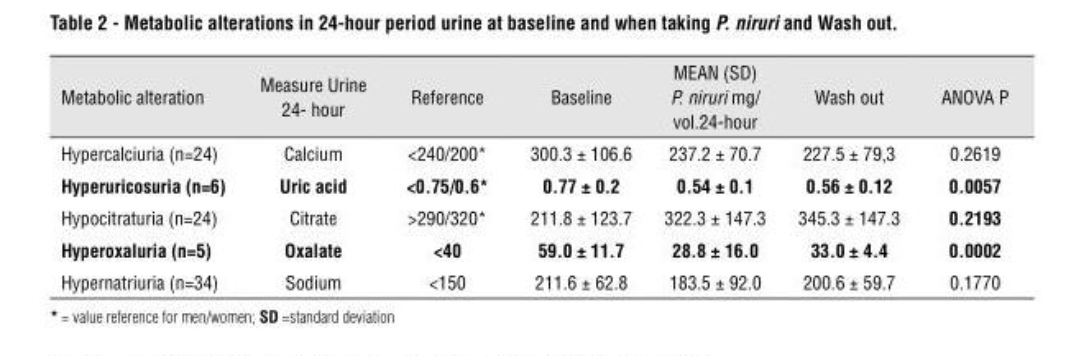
<table><thead><tr><td>Metabolic alteration</td><td>Measure Urine 24- hour</td><td>Reference</td><td>Baseline</td><td>MEAN (SD) P. niruri mg/ vol.24-hour</td><td>Wash out</td><td>ANOVA P</td></tr></thead><tbody><tr><td>Hypercalciuria (n=24)</td><td>Calcium</td><td>&lt;240/200*</td><td>300.3 ± 106.6</td><td>237.2 ± 70.7</td><td>227.5 ± 79,3</td><td>0.2619</td></tr><tr><td>Hyperuricosuria (n=6)</td><td>Uric acid</td><td>&lt;0.75/0.6*</td><td>0.77 ± 0.2</td><td>0.54 ± 0.1</td><td>0.56 ± 0.12</td><td>0.0057</td></tr><tr><td>Hypocitraturia (n=24)</td><td>Citrate</td><td>&gt;290/320*</td><td>211.8 ± 123.7</td><td>322.3 ± 147.3</td><td>345.3 ± 147.3</td><td>0.2193</td></tr><tr><td>Hyperoxaluria (n=5)</td><td>Oxalate</td><td>&lt;40</td><td>59.0 ± 11.7</td><td>28.8 ± 16.0</td><td>33.0 ± 4.4</td><td>0.0002</td></tr><tr><td>Hypernatriuria (n=34)</td><td>Sodium</td><td>&lt;150</td><td>211.6 ± 62.8</td><td>183.5 ± 92.0</td><td>200.6 ± 59.7</td><td>0.1770</td></tr></tbody></table>